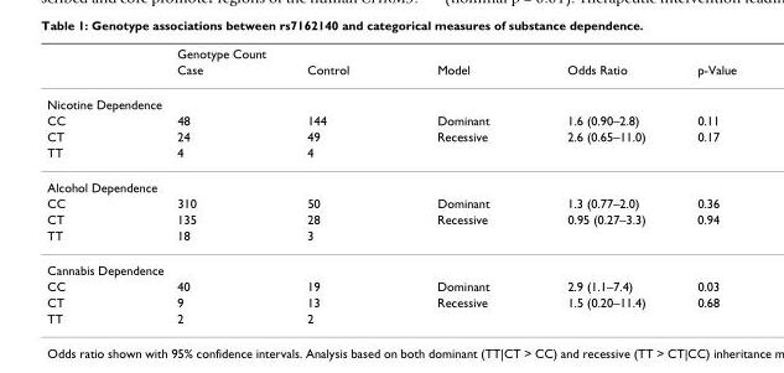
<table><thead><tr><td rowspan="2"></td><td rowspan="2">Genotype Count Case</td><td rowspan="2">Control</td><td rowspan="2">Model</td><td rowspan="2">Odds Ratio</td><td rowspan="2">p-Value</td></tr><tr></tr></thead><tbody><tr><td colspan="6">Nicotine Dependence</td></tr><tr><td>CC</td><td>48</td><td>144</td><td>Dominant</td><td>1.6 (0.90–2.8)</td><td>0.11</td></tr><tr><td>CT</td><td>24</td><td>49</td><td>Recessive</td><td>2.6 (0.65–11.0)</td><td>0.17</td></tr><tr><td>TT</td><td>4</td><td>4</td><td></td><td></td><td></td></tr><tr><td colspan="6">Alcohol Dependence</td></tr><tr><td>CC</td><td>310</td><td>50</td><td>Dominant</td><td>1.3 (0.77–2.0)</td><td>0.36</td></tr><tr><td>CT</td><td>135</td><td>28</td><td>Recessive</td><td>0.95 (0.27–3.3)</td><td>0.94</td></tr><tr><td>TT</td><td>18</td><td>3</td><td></td><td></td><td></td></tr><tr><td colspan="6">Cannabis Dependence</td></tr><tr><td>CC</td><td>40</td><td>19</td><td>Dominant</td><td>2.9 (1.1–7.4)</td><td>0.03</td></tr><tr><td>CT</td><td>9</td><td>13</td><td>Recessive</td><td>1.5 (0.20–11.4)</td><td>0.68</td></tr><tr><td>TT</td><td>2</td><td>2</td><td></td><td></td><td></td></tr></tbody></table>